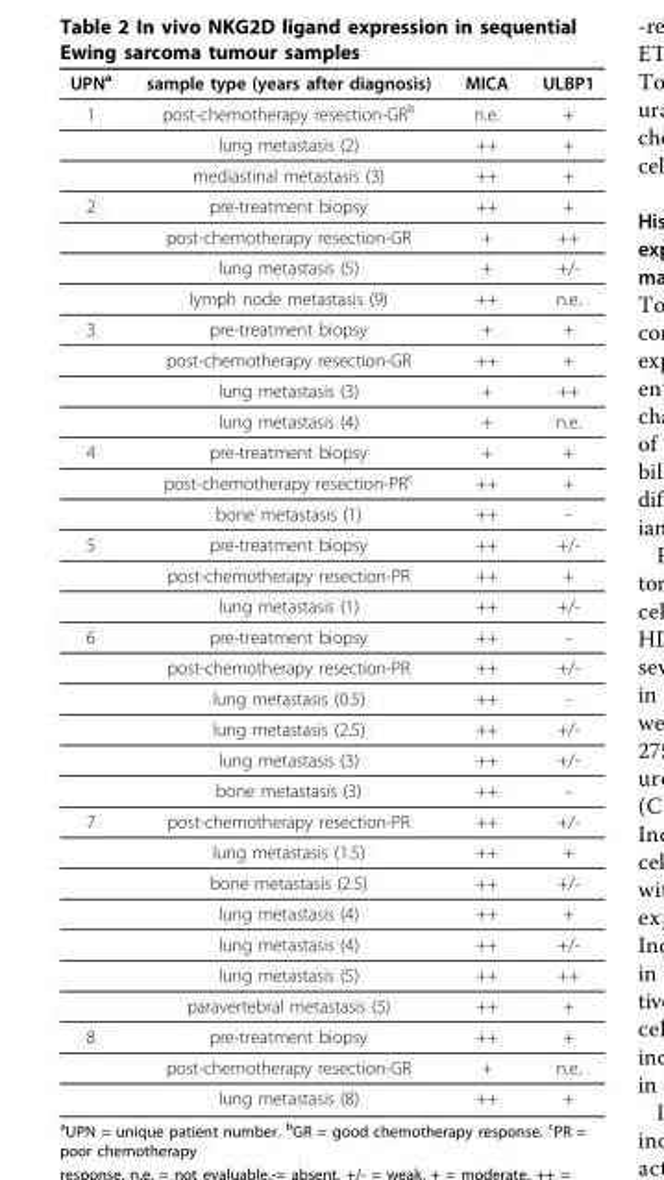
<table><thead><tr><td>UPN<sup>a</sup></td><td>sample type (years after diagnosis)</td><td>MICA</td><td>ULBP1</td></tr></thead><tbody><tr><td rowspan="3">1</td><td>post-chemotherapy resection-GR<sup>b</sup></td><td>n.e.</td><td>+</td></tr><tr><td>lung metastasis (2)</td><td>++</td><td>+</td></tr><tr><td>mediastinal metastasis (3)</td><td>++</td><td>+</td></tr><tr><td rowspan="4">2</td><td>pre-treatment biopsy</td><td>++</td><td>+</td></tr><tr><td>post-chemotherapy resection-GR</td><td>+</td><td>++</td></tr><tr><td>lung metastasis (5)</td><td>+</td><td>+/-</td></tr><tr><td>lymph node metastasis (9)</td><td>++</td><td>n.e.</td></tr><tr><td rowspan="4">3</td><td>pre-treatment biopsy</td><td>+</td><td>+</td></tr><tr><td>post-chemotherapy resection-GR</td><td>++</td><td>+</td></tr><tr><td>lung metastasis (3)</td><td>+</td><td>++</td></tr><tr><td>lung metastasis (4)</td><td>+</td><td>n.e.</td></tr><tr><td rowspan="3">4</td><td>pre-treatment biopsy</td><td>+</td><td>+</td></tr><tr><td>post-chemotherapy resection-PR<sup>c</sup></td><td>++</td><td>+</td></tr><tr><td>bone metastasis (1)</td><td>++</td><td>-</td></tr><tr><td rowspan="3">5</td><td>pre-treatment biopsy</td><td>++</td><td>+/-</td></tr><tr><td>post-chemotherapy resection-PR</td><td>++</td><td>+</td></tr><tr><td>lung metastasis (1)</td><td>++</td><td>+/-</td></tr><tr><td rowspan="6">6</td><td>pre-treatment biopsy</td><td>++</td><td>-</td></tr><tr><td>post-chemotherapy resection-PR</td><td>++</td><td>+/-</td></tr><tr><td>lung metastasis (0.5)</td><td>++</td><td>-</td></tr><tr><td>lung metastasis (2.5)</td><td>++</td><td>+/-</td></tr><tr><td>lung metastasis (3)</td><td>++</td><td>+/-</td></tr><tr><td>bone metastasis (3)</td><td>++</td><td>-</td></tr><tr><td rowspan="7">7</td><td>post-chemotherapy resection-PR</td><td>++</td><td>+/-</td></tr><tr><td>lung metastasis (1.5)</td><td>++</td><td>+</td></tr><tr><td>bone metastasis (2.5)</td><td>++</td><td>+/-</td></tr><tr><td>lung metastasis (4)</td><td>++</td><td>+</td></tr><tr><td>lung metastasis (4)</td><td>++</td><td>+/-</td></tr><tr><td>lung metastasis (5)</td><td>++</td><td>++</td></tr><tr><td>paravertebral metastasis (5)</td><td>++</td><td>+</td></tr><tr><td rowspan="3">8</td><td>pre-treatment biopsy</td><td>++</td><td>+</td></tr><tr><td>post-chemotherapy resection-GR</td><td>+</td><td>n.e.</td></tr><tr><td>lung metastasis (8)</td><td>++</td><td>+</td></tr></tbody></table>